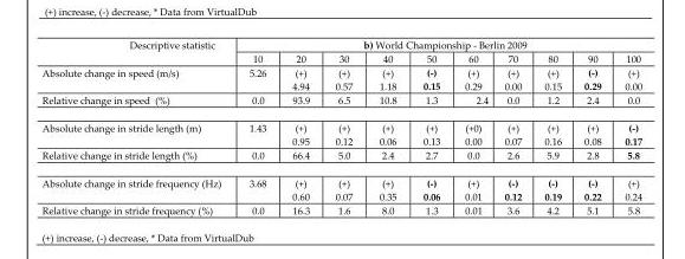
<table><thead><tr><td rowspan="2">Descriptive statistic</td><td colspan="10">b) World Championship - Berlin 2009</td></tr><tr><td>10</td><td>20</td><td>30</td><td>40</td><td>50</td><td>60</td><td>70</td><td>80</td><td>90</td><td>100</td></tr></thead><tbody><tr><td>Absolute change in speed (m/s)</td><td>5.26</td><td>(+) 4.94</td><td>(+) 0.57</td><td>(+) 1.18</td><td>(-) 0.15</td><td>(+) 0.29</td><td>(+) 0.00</td><td>(+) 0.15</td><td>(-) 0.29</td><td>(+) 0.00</td></tr><tr><td>Relative change in speed (%)</td><td>0.0</td><td>93.9</td><td>6.5</td><td>10.8</td><td>1.3</td><td>2.4</td><td>0.0</td><td>1.2</td><td>2.4</td><td>0.0</td></tr><tr><td>Absolute change in stride length (m)</td><td>1.43</td><td>(+) 0.95</td><td>(+) 0.12</td><td>(+) 0.06</td><td>(+) 0.13</td><td>(+0) 0.00</td><td>(+) 0.07</td><td>(+) 0.16</td><td>(+) 0.08</td><td>(-) 0.17</td></tr><tr><td>Relative change in stride length (%)</td><td>0.0</td><td>66.4</td><td>5.0</td><td>2.4</td><td>2.7</td><td>0.0</td><td>2.6</td><td>5.9</td><td>2.8</td><td>5.8</td></tr><tr><td>Absolute change in stride frequency (Hz)</td><td>3.68</td><td>(+) 0.60</td><td>(+) 0.07</td><td>(+) 0.35</td><td>(-) 0.06</td><td>(+) 0.01</td><td>(-) 0.12</td><td>(-) 0.19</td><td>(-) 0.22</td><td>(+) 0.24</td></tr><tr><td>Relative change in stride frequency (%)</td><td>0.0</td><td>16.3</td><td>1.6</td><td>8.0</td><td>1.3</td><td>0.01</td><td>3.6</td><td>4.2</td><td>5.1</td><td>5.8</td></tr></tbody></table>